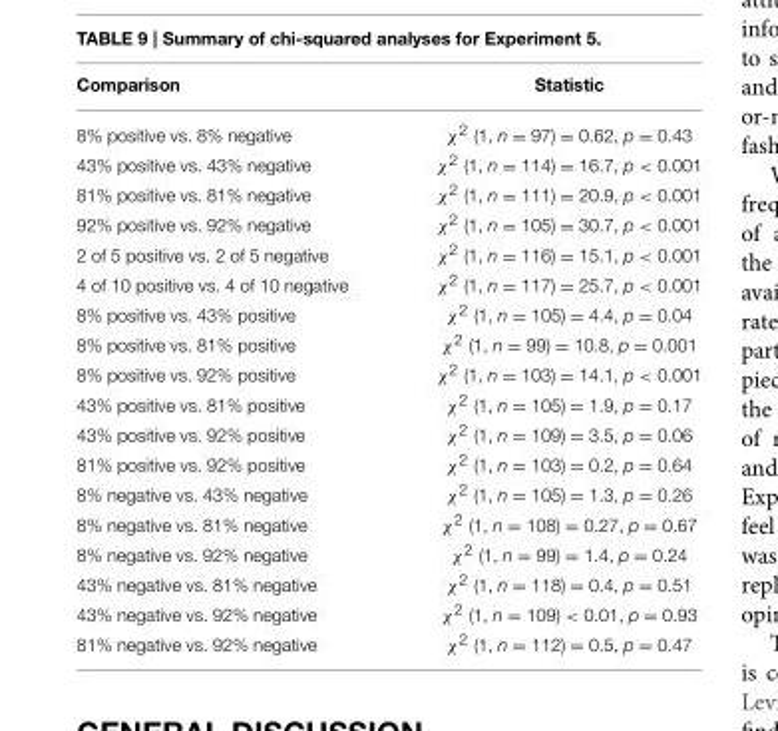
<table><thead><tr><td>Comparison</td><td>Statistic</td></tr></thead><tbody><tr><td>8% positive vs. 8% negative</td><td>χ<sup>2</sup> (1, n = 97) = 0.62, p = 0.43</td></tr><tr><td>43% positive vs. 43% negative</td><td>χ<sup>2</sup> (1, n = 114) = 16.7, p &lt; 0.001</td></tr><tr><td>81% positive vs. 81% negative</td><td>χ<sup>2</sup> (1, n = 111) = 20.9, p &lt; 0.001</td></tr><tr><td>92% positive vs. 92% negative</td><td>χ<sup>2</sup> (1, n = 105) = 30.7, p &lt; 0.001</td></tr><tr><td>2 of 5 positive vs. 2 of 5 negative</td><td>χ<sup>2</sup> (1, n = 116) = 15.1, p &lt; 0.001</td></tr><tr><td>4 of 10 positive vs. 4 of 10 negative</td><td>χ<sup>2</sup> (1, n = 117) = 25.7, p &lt; 0.001</td></tr><tr><td>8% positive vs. 43% positive</td><td>χ<sup>2</sup> (1, n = 105) = 4.4, p = 0.04</td></tr><tr><td>8% positive vs. 81% positive</td><td>χ<sup>2</sup> (1, n = 99) = 10.8, p = 0.001</td></tr><tr><td>8% positive vs. 92% positive</td><td>χ<sup>2</sup> (1, n = 103) = 14.1, p &lt; 0.001</td></tr><tr><td>43% positive vs. 81% positive</td><td>χ<sup>2</sup> (1, n = 105) = 1.9, p = 0.17</td></tr><tr><td>43% positive vs. 92% positive</td><td>χ<sup>2</sup> (1, n = 109) = 3.5, p = 0.06</td></tr><tr><td>81% positive vs. 92% positive</td><td>χ<sup>2</sup> (1, n = 103) = 0.2, p = 0.64</td></tr><tr><td>8% negative vs. 43% negative</td><td>χ<sup>2</sup> (1, n = 105) = 1.3, p = 0.26</td></tr><tr><td>8% negative vs. 81% negative</td><td>χ<sup>2</sup> (1, n = 108) = 0.27, p = 0.67</td></tr><tr><td>8% negative vs. 92% negative</td><td>χ<sup>2</sup> (1, n = 99) = 1.4, p = 0.24</td></tr><tr><td>43% negative vs. 81% negative</td><td>χ<sup>2</sup> (1, n = 118) = 0.4, p = 0.51</td></tr><tr><td>43% negative vs. 92% negative</td><td>χ<sup>2</sup> (1, n = 109) &lt; 0.01, p = 0.93</td></tr><tr><td>81% negative vs. 92% negative</td><td>χ<sup>2</sup> (1, n = 112) = 0.5, p = 0.47</td></tr></tbody></table>